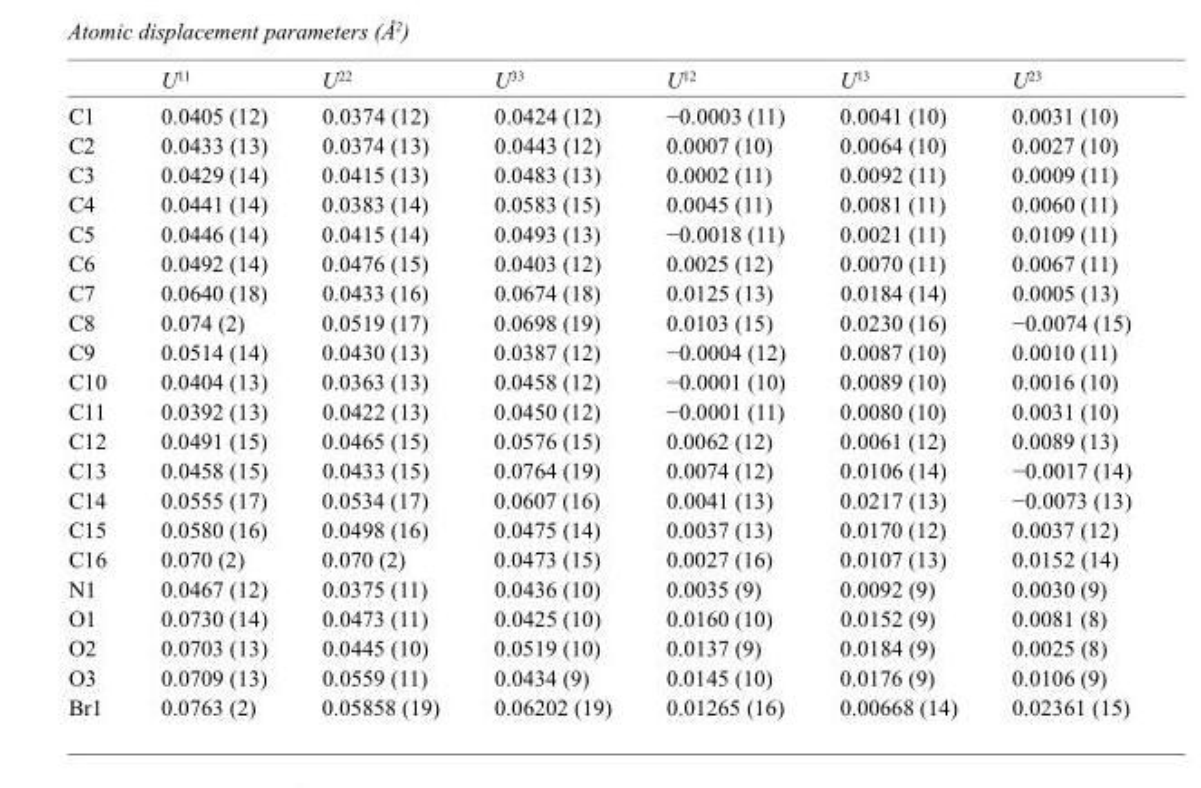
<table><thead><tr><td></td><td>U<sup>11</sup></td><td>U<sup>22</sup></td><td>U<sup>33</sup></td><td>U<sup>12</sup></td><td>U<sup>13</sup></td><td>U<sup>23</sup></td></tr></thead><tbody><tr><td>C1</td><td>0.0405 (12)</td><td>0.0374 (12)</td><td>0.0424 (12)</td><td>−0.0003 (11)</td><td>0.0041 (10)</td><td>0.0031 (10)</td></tr><tr><td>C2</td><td>0.0433 (13)</td><td>0.0374 (13)</td><td>0.0443 (12)</td><td>0.0007 (10)</td><td>0.0064 (10)</td><td>0.0027 (10)</td></tr><tr><td>C3</td><td>0.0429 (14)</td><td>0.0415 (13)</td><td>0.0483 (13)</td><td>0.0002 (11)</td><td>0.0092 (11)</td><td>0.0009 (11)</td></tr><tr><td>C4</td><td>0.0441 (14)</td><td>0.0383 (14)</td><td>0.0583 (15)</td><td>0.0045 (11)</td><td>0.0081 (11)</td><td>0.0060 (11)</td></tr><tr><td>C5</td><td>0.0446 (14)</td><td>0.0415 (14)</td><td>0.0493 (13)</td><td>−0.0018 (11)</td><td>0.0021 (11)</td><td>0.0109 (11)</td></tr><tr><td>C6</td><td>0.0492 (14)</td><td>0.0476 (15)</td><td>0.0403 (12)</td><td>0.0025 (12)</td><td>0.0070 (11)</td><td>0.0067 (11)</td></tr><tr><td>C7</td><td>0.0640 (18)</td><td>0.0433 (16)</td><td>0.0674 (18)</td><td>0.0125 (13)</td><td>0.0184 (14)</td><td>0.0005 (13)</td></tr><tr><td>C8</td><td>0.074 (2)</td><td>0.0519 (17)</td><td>0.0698 (19)</td><td>0.0103 (15)</td><td>0.0230 (16)</td><td>−0.0074 (15)</td></tr><tr><td>C9</td><td>0.0514 (14)</td><td>0.0430 (13)</td><td>0.0387 (12)</td><td>−0.0004 (12)</td><td>0.0087 (10)</td><td>0.0010 (11)</td></tr><tr><td>C10</td><td>0.0404 (13)</td><td>0.0363 (13)</td><td>0.0458 (12)</td><td>−0.0001 (10)</td><td>0.0089 (10)</td><td>0.0016 (10)</td></tr><tr><td>C11</td><td>0.0392 (13)</td><td>0.0422 (13)</td><td>0.0450 (12)</td><td>−0.0001 (11)</td><td>0.0080 (10)</td><td>0.0031 (10)</td></tr><tr><td>C12</td><td>0.0491 (15)</td><td>0.0465 (15)</td><td>0.0576 (15)</td><td>0.0062 (12)</td><td>0.0061 (12)</td><td>0.0089 (13)</td></tr><tr><td>C13</td><td>0.0458 (15)</td><td>0.0433 (15)</td><td>0.0764 (19)</td><td>0.0074 (12)</td><td>0.0106 (14)</td><td>−0.0017 (14)</td></tr><tr><td>C14</td><td>0.0555 (17)</td><td>0.0534 (17)</td><td>0.0607 (16)</td><td>0.0041 (13)</td><td>0.0217 (13)</td><td>−0.0073 (13)</td></tr><tr><td>C15</td><td>0.0580 (16)</td><td>0.0498 (16)</td><td>0.0475 (14)</td><td>0.0037 (13)</td><td>0.0170 (12)</td><td>0.0037 (12)</td></tr><tr><td>C16</td><td>0.070 (2)</td><td>0.070 (2)</td><td>0.0473 (15)</td><td>0.0027 (16)</td><td>0.0107 (13)</td><td>0.0152 (14)</td></tr><tr><td>N1</td><td>0.0467 (12)</td><td>0.0375 (11)</td><td>0.0436 (10)</td><td>0.0035 (9)</td><td>0.0092 (9)</td><td>0.0030 (9)</td></tr><tr><td>O1</td><td>0.0730 (14)</td><td>0.0473 (11)</td><td>0.0425 (10)</td><td>0.0160 (10)</td><td>0.0152 (9)</td><td>0.0081 (8)</td></tr><tr><td>O2</td><td>0.0703 (13)</td><td>0.0445 (10)</td><td>0.0519 (10)</td><td>0.0137 (9)</td><td>0.0184 (9)</td><td>0.0025 (8)</td></tr><tr><td>O3</td><td>0.0709 (13)</td><td>0.0559 (11)</td><td>0.0434 (9)</td><td>0.0145 (10)</td><td>0.0176 (9)</td><td>0.0106 (9)</td></tr><tr><td>Br1</td><td>0.0763 (2)</td><td>0.05858 (19)</td><td>0.06202 (19)</td><td>0.01265 (16)</td><td>0.00668 (14)</td><td>0.02361 (15)</td></tr></tbody></table>